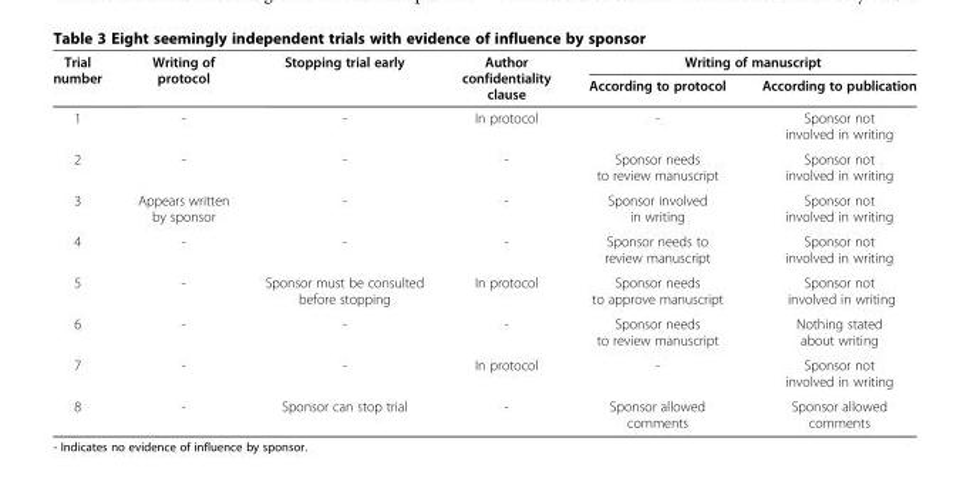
<table><thead><tr><td rowspan="2">Trial number</td><td rowspan="2">Writing of protocol</td><td rowspan="2">Stopping trial early</td><td rowspan="2">Author confidentiality clause</td><td colspan="2">Writing of manuscript</td></tr><tr><td>According to protocol</td><td>According to publication</td></tr></thead><tbody><tr><td>1</td><td>-</td><td>-</td><td>In protocol</td><td>-</td><td>Sponsor not involved in writing</td></tr><tr><td>2</td><td>-</td><td>-</td><td>-</td><td>Sponsor needs to review manuscript</td><td>Sponsor not involved in writing</td></tr><tr><td>3</td><td>Appears written by sponsor</td><td>-</td><td>-</td><td>Sponsor involved in writing</td><td>Sponsor not involved in writing</td></tr><tr><td>4</td><td>-</td><td>-</td><td>-</td><td>Sponsor needs to review manuscript</td><td>Sponsor not involved in writing</td></tr><tr><td>5</td><td>-</td><td>Sponsor must be consulted before stopping</td><td>In protocol</td><td>Sponsor needs to approve manuscript</td><td>Sponsor not involved in writing</td></tr><tr><td>6</td><td>-</td><td>-</td><td>-</td><td>Sponsor needs to review manuscript</td><td>Nothing stated about writing</td></tr><tr><td>7</td><td>-</td><td>-</td><td>In protocol</td><td>-</td><td>Sponsor not involved in writing</td></tr><tr><td>8</td><td>-</td><td>Sponsor can stop trial</td><td>-</td><td>Sponsor allowed comments</td><td>Sponsor allowed comments</td></tr></tbody></table>